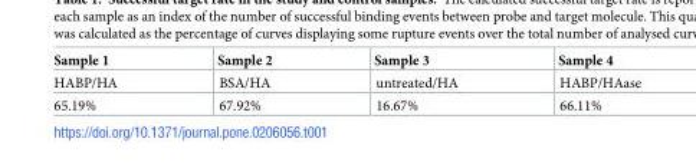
<table><thead><tr><td>Sample 1</td><td>Sample 2</td><td>Sample 3</td><td>Sample 4</td></tr></thead><tbody><tr><td>HABP/HA</td><td>BSA/HA</td><td>untreated/HA</td><td>HABP/HAase</td></tr><tr><td>65.19%</td><td>67.92%</td><td>16.67%</td><td>66.11%</td></tr></tbody></table>